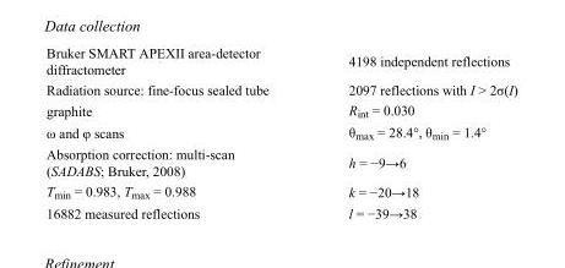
<table><tbody><tr><td>Bruker SMART APEXII area-detector diffractometer</td><td>4198 independent reflections</td></tr><tr><td>Radiation source: fine-focus sealed tube</td><td>2097 reflections with I &gt; 2σ(I)</td></tr><tr><td>graphite</td><td>R<sub>int</sub> = 0.030</td></tr><tr><td>ω and φ scans</td><td>θ<sub>max</sub> = 28.4°, θ<sub>min</sub> = 1.4°</td></tr><tr><td>Absorption correction: multi-scan (SADABS; Bruker, 2008)</td><td>h = −9→6</td></tr><tr><td>T<sub>min</sub> = 0.983, T<sub>max</sub> = 0.988</td><td>k = −20→18</td></tr><tr><td>16882 measured reflections</td><td>l = −39→38</td></tr></tbody></table>